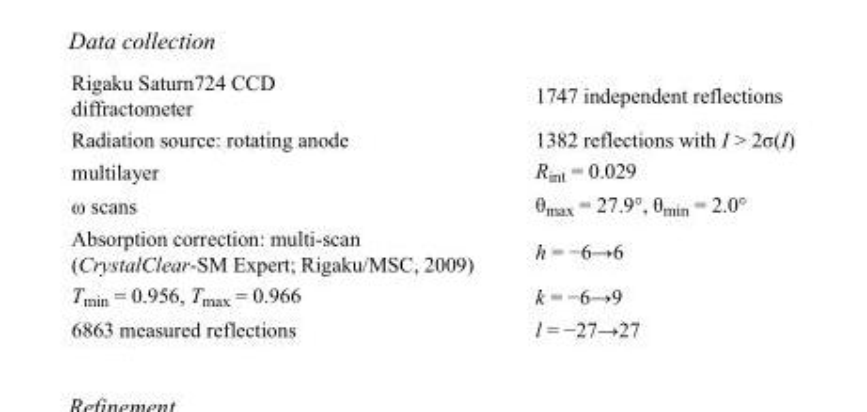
<table><tbody><tr><td>Rigaku Saturn724 CCD diffractometer</td><td>1747 independent reflections</td></tr><tr><td>Radiation source: rotating anode</td><td>1382 reflections with I &gt; 2σ(I)</td></tr><tr><td>multilayer</td><td>R<sub>int</sub> = 0.029</td></tr><tr><td>ω scans</td><td>θ<sub>max</sub> = 27.9°, θ<sub>min</sub> = 2.0°</td></tr><tr><td>Absorption correction: multi-scan (CrystalClear-SM Expert; Rigaku/MSC, 2009)</td><td>h = −6→6</td></tr><tr><td>T<sub>min</sub> = 0.956, T<sub>max</sub> = 0.966</td><td>k = −6→9</td></tr><tr><td>6863 measured reflections</td><td>l = −27→27</td></tr></tbody></table>